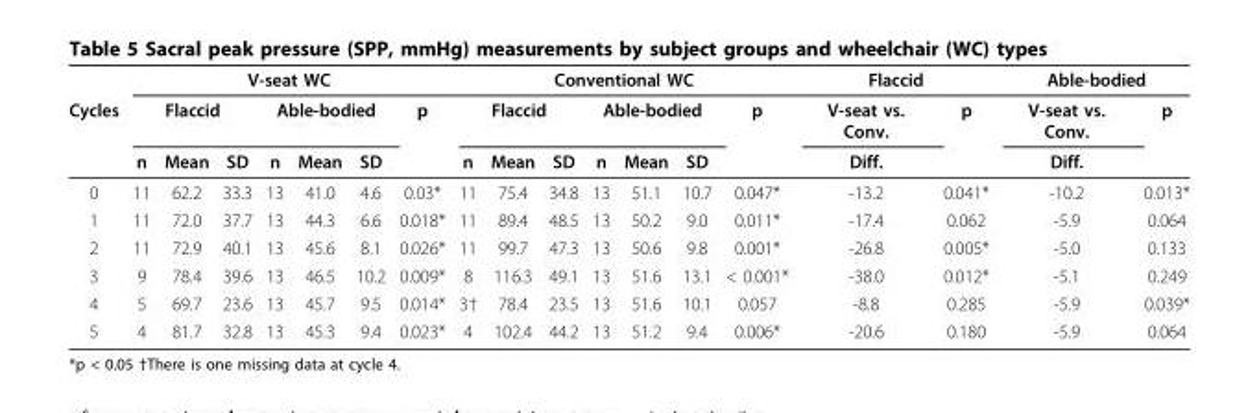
<table><thead><tr><td rowspan="3">Cycles</td><td colspan="7">V-seat WC</td><td colspan="7">Conventional WC</td><td colspan="2">Flaccid</td><td colspan="2">Able-bodied</td></tr><tr><td colspan="3">Flaccid</td><td colspan="3">Able-bodied</td><td rowspan="2">p</td><td colspan="3">Flaccid</td><td colspan="3">Able-bodied</td><td rowspan="2">p</td><td rowspan="2">V-seat vs. Conv. Diff.</td><td rowspan="2">p</td><td rowspan="2">V-seat vs. Conv. Diff.</td><td rowspan="2">p</td></tr><tr><td>n</td><td>Mean</td><td>SD</td><td>n</td><td>Mean</td><td>SD</td><td>n</td><td>Mean</td><td>SD</td><td>n</td><td>Mean</td><td>SD</td></tr></thead><tbody><tr><td>0</td><td>11</td><td>62.2</td><td>33.3</td><td>13</td><td>41.0</td><td>4.6</td><td>0.03*</td><td>11</td><td>75.4</td><td>34.8</td><td>13</td><td>51.1</td><td>10.7</td><td>0.047*</td><td>-13.2</td><td>0.041*</td><td>-10.2</td><td>0.013*</td></tr><tr><td>1</td><td>11</td><td>72.0</td><td>37.7</td><td>13</td><td>44.3</td><td>6.6</td><td>0.018*</td><td>11</td><td>89.4</td><td>48.5</td><td>13</td><td>50.2</td><td>9.0</td><td>0.011*</td><td>-17.4</td><td>0.062</td><td>-5.9</td><td>0.064</td></tr><tr><td>2</td><td>11</td><td>72.9</td><td>40.1</td><td>13</td><td>45.6</td><td>8.1</td><td>0.026*</td><td>11</td><td>99.7</td><td>47.3</td><td>13</td><td>50.6</td><td>9.8</td><td>0.001*</td><td>-26.8</td><td>0.005*</td><td>-5.0</td><td>0.133</td></tr><tr><td>3</td><td>9</td><td>78.4</td><td>39.6</td><td>13</td><td>46.5</td><td>10.2</td><td>0.009*</td><td>8</td><td>116.3</td><td>49.1</td><td>13</td><td>51.6</td><td>13.1</td><td>&lt; 0.001*</td><td>-38.0</td><td>0.012*</td><td>-5.1</td><td>0.249</td></tr><tr><td>4</td><td>5</td><td>69.7</td><td>23.6</td><td>13</td><td>45.7</td><td>9.5</td><td>0.014*</td><td>3†</td><td>78.4</td><td>23.5</td><td>13</td><td>51.6</td><td>10.1</td><td>0.057</td><td>-8.8</td><td>0.285</td><td>-5.9</td><td>0.039*</td></tr><tr><td>5</td><td>4</td><td>81.7</td><td>32.8</td><td>13</td><td>45.3</td><td>9.4</td><td>0.023*</td><td>4</td><td>102.4</td><td>44.2</td><td>13</td><td>51.2</td><td>9.4</td><td>0.006*</td><td>-20.6</td><td>0.180</td><td>-5.9</td><td>0.064</td></tr></tbody></table>